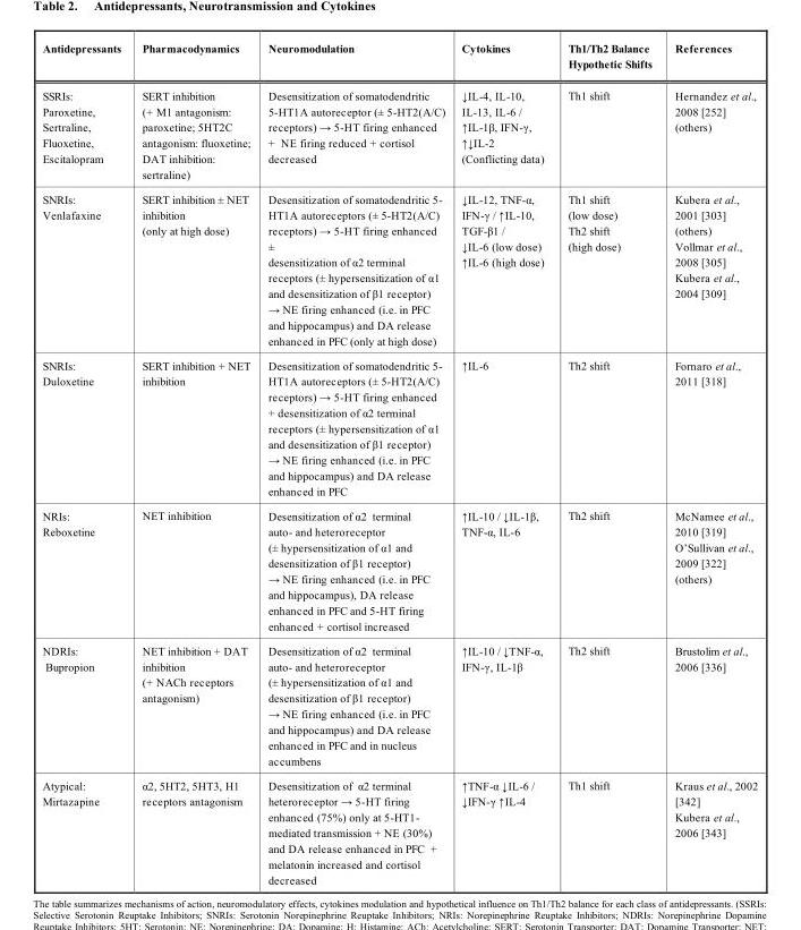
<table><thead><tr><td>Antidepressants</td><td>Pharmacodynamics</td><td>Neuromodulation</td><td>Cytokines</td><td>Th1/Th2 Balance Hypothetic Shifts</td><td>References</td></tr></thead><tbody><tr><td>SSRIs: Paroxetine, Sertraline, Fluoxetine, Escitalopram</td><td>SERT inhibition (+ M1 antagonism: paroxetine; 5HT2C antagonism: fluoxetine; DAT inhibition: sertraline)</td><td>Desensitization of somatodendritic 5-HT1A autoreceptor (± 5-HT2(A/C) receptors) → 5-HT firing enhanced + NE firing reduced + cortisol decreased</td><td>↓IL-4, IL-10, IL-13, IL-6 / ↑IL-1β, IFN-γ, ↑↓IL-2 (Conflicting data)</td><td>Th1 shift</td><td>Hernandez et al., 2008 [252] (others)</td></tr><tr><td>SNRIs: Venlafaxine</td><td>SERT inhibition ± NET inhibition (only at high dose)</td><td>Desensitization of somatodendritic 5- HT1A autoreceptors (± 5-HT2(A/C) receptors) → 5-HT firing enhanced ± desensitization of α2 terminal receptors (± hypersensitization of α1 and desensitization of β1 receptor) → NE firing enhanced (i.e. in PFC and hippocampus) and DA release enhanced in PFC (only at high dose)</td><td>↓IL-12, TNF-α, IFN-γ / ↑IL-10, TGF-β1 / ↓IL-6 (low dose) ↑IL-6 (high dose)</td><td>Th1 shift (low dose) Th2 shift (high dose)</td><td>Kubera et al., 2001 [303] (others) Vollmar et al., 2008 [305] Kubera et al., 2004 [309]</td></tr><tr><td>SNRIs: Duloxetine</td><td>SERT inhibition + NET inhibition</td><td>Desensitization of somatodendritic 5- HT1A autoreceptors (± 5-HT2(A/C) receptors) → 5-HT firing enhanced + desensitization of α2 terminal receptors (± hypersensitization of α1 and desensitization of β1 receptor) → NE firing enhanced (i.e. in PFC and hippocampus) and DA release enhanced in PFC</td><td>↑IL-6</td><td>Th2 shift</td><td>Fornaro et al., 2011 [318]</td></tr><tr><td>NRIs: Reboxetine</td><td>NET inhibition</td><td>Desensitization of α2 terminal auto- and heteroreceptor (± hypersensitization of α1 and desensitization of β1 receptor) → NE firing enhanced (i.e. in PFC and hippocampus), DA release enhanced in PFC and 5-HT firing enhanced + cortisol increased</td><td>↑IL-10 / ↓IL-1β, TNF-α, IL-6</td><td>Th2 shift</td><td>McNamee et al., 2010 [319] O’Sullivan et al., 2009 [322] (others)</td></tr><tr><td>NDRIs: Bupropion</td><td>NET inhibition + DAT inhibition (+ NACh receptors antagonism)</td><td>Desensitization of α2 terminal auto- and heteroreceptor (± hypersensitization of α1 and desensitization of β1 receptor) → NE firing enhanced (i.e. in PFC and hippocampus) and DA release enhanced in PFC and in nucleus accumbens</td><td>↑IL-10 / ↓TNF-α, IFN-γ, IL-1β</td><td>Th2 shift</td><td>Brustolim et al., 2006 [336]</td></tr><tr><td>Atypical: Mirtazapine</td><td>α2, 5HT2, 5HT3, H1 receptors antagonism</td><td>Desensitization of α2 terminal heteroreceptor → 5-HT firing enhanced (75%) only at 5-HT1- mediated transmission + NE (30%) and DA release enhanced in PFC + melatonin increased and cortisol decreased</td><td>↑TNF-α ↓IL-6 / ↓IFN-γ ↑IL-4</td><td>Th1 shift</td><td>Kraus et al., 2002 [342] Kubera et al., 2006 [343]</td></tr></tbody></table>